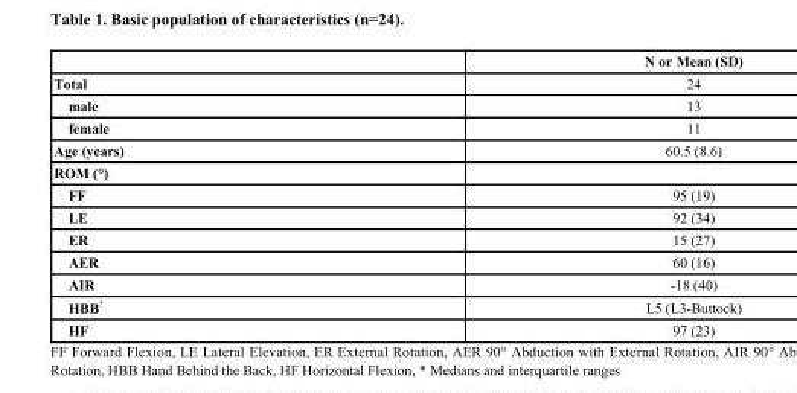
<table><thead><tr><td></td><td>N or Mean (SD)</td></tr></thead><tbody><tr><td>Total</td><td>24</td></tr><tr><td>male</td><td>13</td></tr><tr><td>female</td><td>11</td></tr><tr><td>Age (years)</td><td>60.5 (8.6)</td></tr><tr><td colspan="2">ROM (°)</td></tr><tr><td>FF</td><td>95 (19)</td></tr><tr><td>LE</td><td>92 (34)</td></tr><tr><td>ER</td><td>15 (27)</td></tr><tr><td>AER</td><td>60 (16)</td></tr><tr><td>AIR</td><td>-18 (40)</td></tr><tr><td>HBB *</td><td>L5 (L3-Buttock)</td></tr><tr><td>HF</td><td>97 (23)</td></tr></tbody></table>